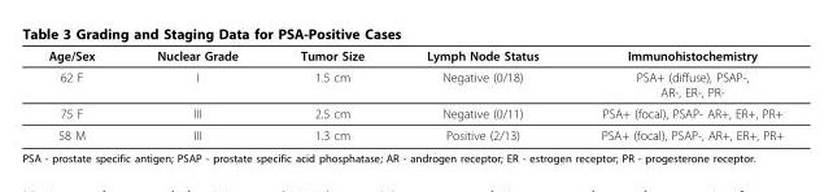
<table><thead><tr><td>Age/Sex</td><td>Nuclear Grade</td><td>Tumor Size</td><td>Lymph Node Status</td><td>Immunohistochemistry</td></tr></thead><tbody><tr><td>62 F</td><td>I</td><td>1.5 cm</td><td>Negative (0/18)</td><td>PSA+ (diffuse), PSAP-, AR-, ER-, PR-</td></tr><tr><td>75 F</td><td>III</td><td>2.5 cm</td><td>Negative (0/11)</td><td>PSA+ (focal), PSAP- AR+, ER+, PR+</td></tr><tr><td>58 M</td><td>III</td><td>1.3 cm</td><td>Positive (2/13)</td><td>PSA+ (focal), PSAP-, AR+, ER+, PR+</td></tr></tbody></table>